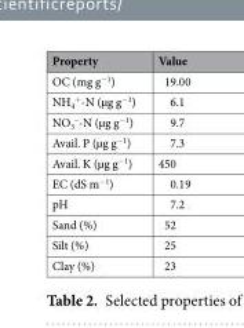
<table><thead><tr><td>Property</td><td>Value</td></tr></thead><tbody><tr><td>OC (mg g<sup>−1</sup>)</td><td>19.00</td></tr><tr><td>NH<sub>4</sub> <sup>+</sup>-N (µg g<sup>−1</sup>)</td><td>6.1</td></tr><tr><td>NO<sub>3</sub> <sup>–</sup>-N (µg g<sup>−1</sup>)</td><td>9.7</td></tr><tr><td>Avail. P (µg g<sup>−1</sup>)</td><td>7.3</td></tr><tr><td>Avail. K (µg g<sup>−1</sup>)</td><td>450</td></tr><tr><td>EC (dS m<sup>−1</sup>)</td><td>0.19</td></tr><tr><td>pH</td><td>7.2</td></tr><tr><td>Sand (%)</td><td>52</td></tr><tr><td>Silt (%)</td><td>25</td></tr><tr><td>Clay (%)</td><td>23</td></tr></tbody></table>